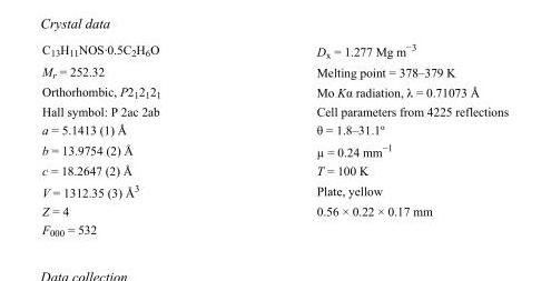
<table><tbody><tr><td>C<sub>13</sub>H<sub>11</sub>NOS·0.5C<sub>2</sub>H<sub>6</sub>O</td><td>D<sub>x</sub> = 1.277 Mg m<sup>−3</sup></td></tr><tr><td>M<sub>r</sub> = 252.32</td><td>Melting point = 378–379 K</td></tr><tr><td>Orthorhombic, P2<sub>1</sub>2<sub>1</sub>2<sub>1</sub></td><td>Mo Kα radiation, λ = 0.71073 Å</td></tr><tr><td>Hall symbol: P 2ac 2ab</td><td>Cell parameters from 4225 reflections</td></tr><tr><td>a = 5.1413 (1) Å</td><td>θ = 1.8–31.1º</td></tr><tr><td>b = 13.9754 (2) Å</td><td>µ = 0.24 mm<sup>−1</sup></td></tr><tr><td>c = 18.2647 (2) Å</td><td>T = 100 K</td></tr><tr><td>V = 1312.35 (3) Å<sup>3</sup></td><td>Plate, yellow</td></tr><tr><td>Z = 4</td><td>0.56 × 0.22 × 0.17 mm</td></tr><tr><td>F000 = 532</td><td></td></tr></tbody></table>